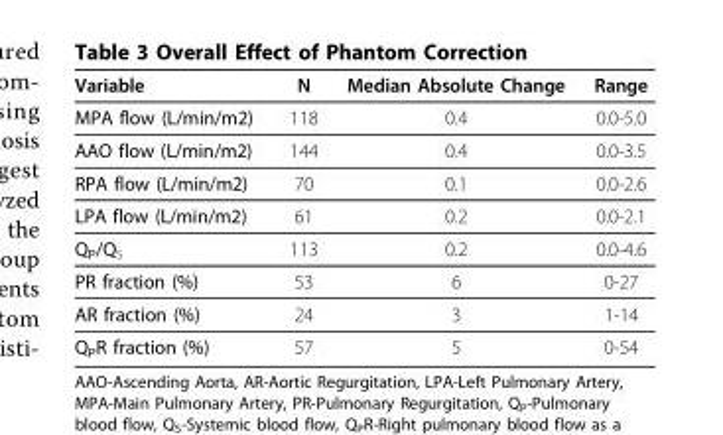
<table><thead><tr><td>Variable</td><td>N</td><td>Median Absolute Change</td><td>Range</td></tr></thead><tbody><tr><td>MPA flow (L/min/m2)</td><td>118</td><td>0.4</td><td>0.0-5.0</td></tr><tr><td>AAO flow (L/min/m2)</td><td>144</td><td>0.4</td><td>0.0-3.5</td></tr><tr><td>RPA flow (L/min/m2)</td><td>70</td><td>0.1</td><td>0.0-2.6</td></tr><tr><td>LPA flow (L/min/m2)</td><td>61</td><td>0.2</td><td>0.0-2.1</td></tr><tr><td>Q<sub>P</sub>/Q<sub>S</sub></td><td>113</td><td>0.2</td><td>0.0-4.6</td></tr><tr><td>PR fraction (%)</td><td>53</td><td>6</td><td>0-27</td></tr><tr><td>AR fraction (%)</td><td>24</td><td>3</td><td>1-14</td></tr><tr><td>Q<sub>P</sub>R fraction (%)</td><td>57</td><td>5</td><td>0-54</td></tr></tbody></table>